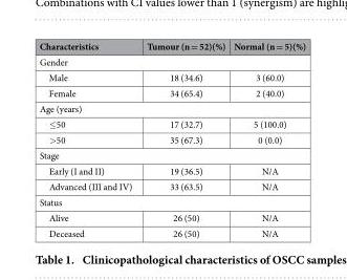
<table><thead><tr><td>Characteristics</td><td>Tumour (n = 52)(%)</td><td>Normal (n = 5)(%)</td></tr></thead><tbody><tr><td colspan="3">Gender</td></tr><tr><td>Male</td><td>18 (34.6)</td><td>3 (60.0)</td></tr><tr><td>Female</td><td>34 (65.4)</td><td>2 (40.0)</td></tr><tr><td colspan="3">Age (years)</td></tr><tr><td>≤ 50</td><td>17 (32.7)</td><td>5 (100.0)</td></tr><tr><td>&gt; 50</td><td>35 (67.3)</td><td>0 (0.0)</td></tr><tr><td colspan="3">Stage</td></tr><tr><td>Early (I and II)</td><td>19 (36.5)</td><td>N/A</td></tr><tr><td>Advanced (III and IV)</td><td>33 (63.5)</td><td>N/A</td></tr><tr><td colspan="3">Status</td></tr><tr><td>Alive</td><td>26 (50)</td><td>N/A</td></tr><tr><td>Deceased</td><td>26 (50)</td><td>N/A</td></tr></tbody></table>